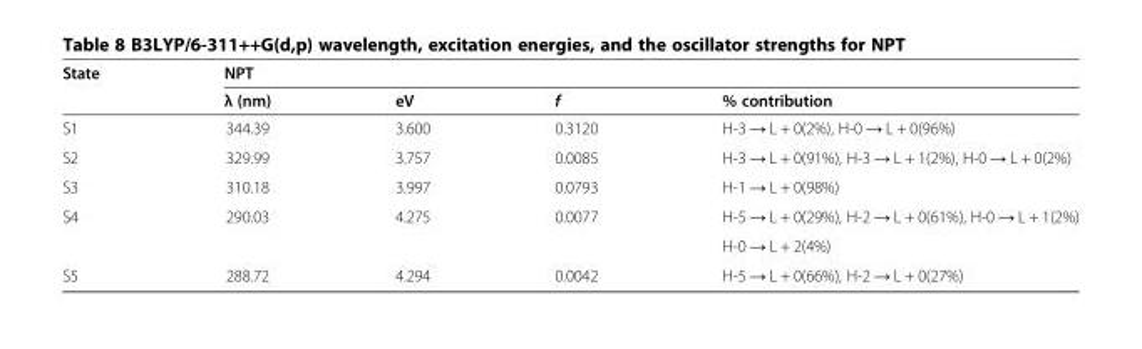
<table><thead><tr><td rowspan="2">State</td><td colspan="4">NPT</td></tr><tr><td>λ (nm)</td><td>eV</td><td>f</td><td>% contribution</td></tr></thead><tbody><tr><td>S1</td><td>344.39</td><td>3.600</td><td>0.3120</td><td>H-3 → L + 0(2%), H-0 → L + 0(96%)</td></tr><tr><td>S2</td><td>329.99</td><td>3.757</td><td>0.0085</td><td>H-3 → L + 0(91%), H-3 → L + 1(2%), H-0 → L + 0(2%)</td></tr><tr><td>S3</td><td>310.18</td><td>3.997</td><td>0.0793</td><td>H-1 → L + 0(98%)</td></tr><tr><td rowspan="2">S4</td><td rowspan="2">290.03</td><td rowspan="2">4.275</td><td rowspan="2">0.0077</td><td>H-5 → L + 0(29%), H-2 → L + 0(61%), H-0 → L + 1(2%)</td></tr><tr><td>H-0 → L + 2(4%)</td></tr><tr><td>S5</td><td>288.72</td><td>4.294</td><td>0.0042</td><td>H-5 → L + 0(66%), H-2 → L + 0(27%)</td></tr></tbody></table>